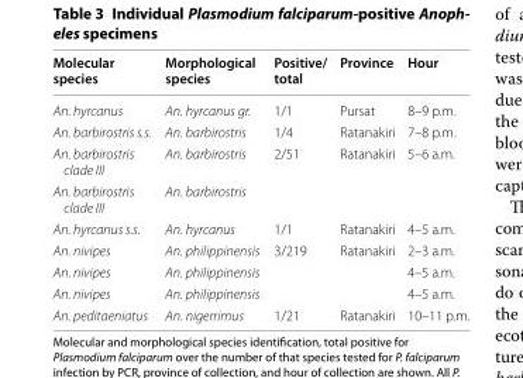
<table><thead><tr><td>Molecular species</td><td>Morphological species</td><td>Positive/ total</td><td>Province</td><td>Hour</td></tr></thead><tbody><tr><td>An. hyrcanus</td><td>An. hyrcanus gr.</td><td>1/1</td><td>Pursat</td><td>8–9 p.m.</td></tr><tr><td>An. barbirostris s.s.</td><td>An. barbirostris</td><td>1/4</td><td>Ratanakiri</td><td>7–8 p.m.</td></tr><tr><td>An. barbirostris clade III</td><td>An. barbirostris</td><td rowspan="2">2/51</td><td rowspan="2">Ratanakiri</td><td rowspan="2">5–6 a.m.</td></tr><tr><td>An. barbirostris clade III</td><td>An. barbirostris</td></tr><tr><td>An. hyrcanus s.s.</td><td>An. hyrcanus</td><td>1/1</td><td>Ratanakiri</td><td>4–5 a.m.</td></tr><tr><td>An. nivipes</td><td>An. philippinensis</td><td rowspan="3">3/219</td><td rowspan="3">Ratanakiri</td><td>2–3 a.m.</td></tr><tr><td>An. nivipes</td><td>An. philippinensis</td><td>4–5 a.m.</td></tr><tr><td>An. nivipes</td><td>An. philippinensis</td><td>4–5 a.m.</td></tr><tr><td>An. peditaeniatus</td><td>An. nigerrimus</td><td>1/21</td><td>Ratanakiri</td><td>10–11 p.m.</td></tr></tbody></table>